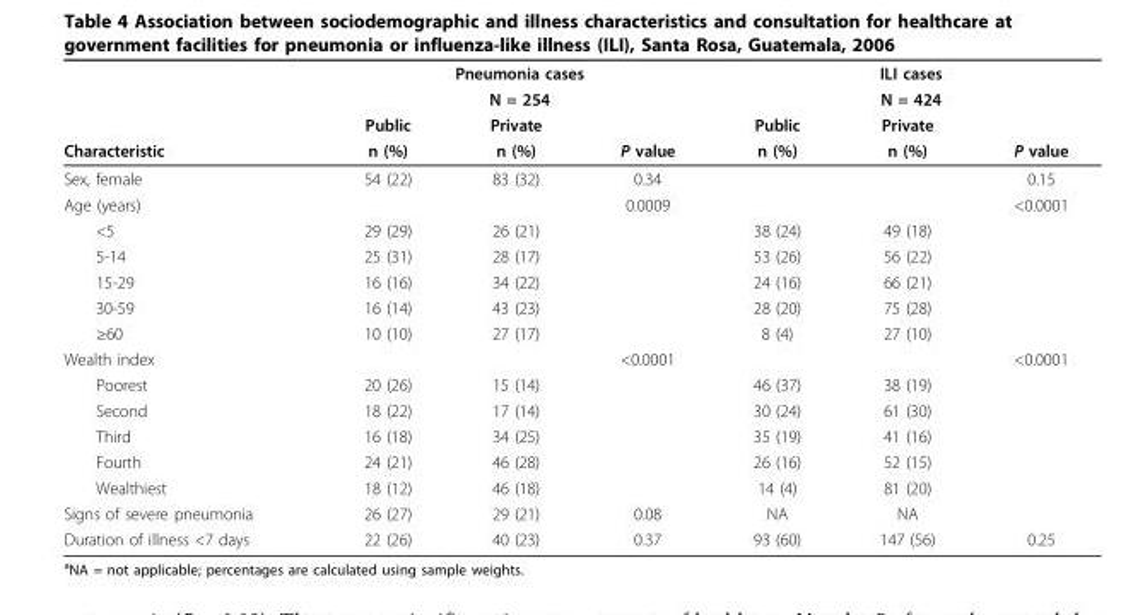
<table><thead><tr><td rowspan="4">Characteristic</td><td rowspan="2" colspan="3">Pneumonia cases N = 254</td><td rowspan="2" colspan="3">ILI cases N = 424</td></tr><tr></tr><tr><td rowspan="2">Public n (%)</td><td rowspan="2">Private n (%)</td><td rowspan="2">P value</td><td rowspan="2">Public n (%)</td><td rowspan="2">Private n (%)</td><td rowspan="2">P value</td></tr><tr></tr></thead><tbody><tr><td>Sex, female</td><td>54 (22)</td><td>83 (32)</td><td>0.34</td><td></td><td></td><td>0.15</td></tr><tr><td>Age (years)</td><td></td><td></td><td>0.0009</td><td></td><td></td><td>&lt;0.0001</td></tr><tr><td>&lt;5</td><td>29 (29)</td><td>26 (21)</td><td></td><td>38 (24)</td><td>49 (18)</td><td></td></tr><tr><td>5-14</td><td>25 (31)</td><td>28 (17)</td><td></td><td>53 (26)</td><td>56 (22)</td><td></td></tr><tr><td>15-29</td><td>16 (16)</td><td>34 (22)</td><td></td><td>24 (16)</td><td>66 (21)</td><td></td></tr><tr><td>30-59</td><td>16 (14)</td><td>43 (23)</td><td></td><td>28 (20)</td><td>75 (28)</td><td></td></tr><tr><td>≥60</td><td>10 (10)</td><td>27 (17)</td><td></td><td>8 (4)</td><td>27 (10)</td><td></td></tr><tr><td>Wealth index</td><td></td><td></td><td>&lt;0.0001</td><td></td><td></td><td>&lt;0.0001</td></tr><tr><td>Poorest</td><td>20 (26)</td><td>15 (14)</td><td></td><td>46 (37)</td><td>38 (19)</td><td></td></tr><tr><td>Second</td><td>18 (22)</td><td>17 (14)</td><td></td><td>30 (24)</td><td>61 (30)</td><td></td></tr><tr><td>Third</td><td>16 (18)</td><td>34 (25)</td><td></td><td>35 (19)</td><td>41 (16)</td><td></td></tr><tr><td>Fourth</td><td>24 (21)</td><td>46 (28)</td><td></td><td>26 (16)</td><td>52 (15)</td><td></td></tr><tr><td>Wealthiest</td><td>18 (12)</td><td>46 (18)</td><td></td><td>14 (4)</td><td>81 (20)</td><td></td></tr><tr><td>Signs of severe pneumonia</td><td>26 (27)</td><td>29 (21)</td><td>0.08</td><td>NA</td><td>NA</td><td></td></tr><tr><td>Duration of illness &lt;7 days</td><td>22 (26)</td><td>40 (23)</td><td>0.37</td><td>93 (60)</td><td>147 (56)</td><td>0.25</td></tr></tbody></table>